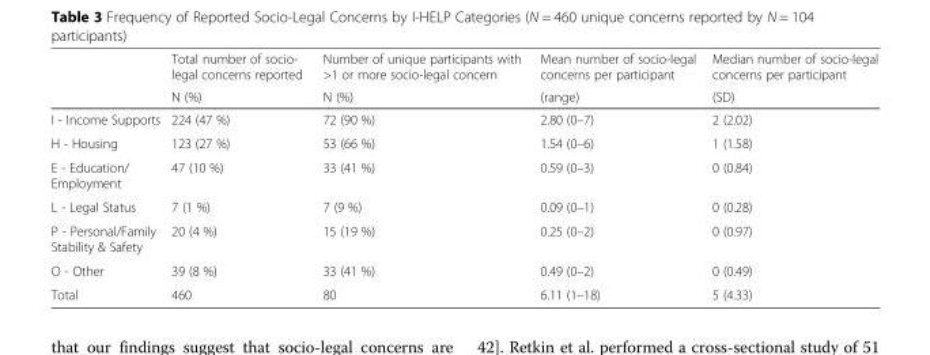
<table><thead><tr><td rowspan="2"></td><td rowspan="2">Total number of socio- legal concerns reported N (%)</td><td rowspan="2">Number of unique participants with &gt;1 or more socio-legal concern N (%)</td><td rowspan="2">Mean number of socio-legal concerns per participant (range)</td><td rowspan="2">Median number of socio-legal concerns per participant (SD)</td></tr><tr></tr></thead><tbody><tr><td>I - Income Supports</td><td>224 (47 %)</td><td>72 (90 %)</td><td>2.80 (0–7)</td><td>2 (2.02)</td></tr><tr><td>H - Housing</td><td>123 (27 %)</td><td>53 (66 %)</td><td>1.54 (0–6)</td><td>1 (1.58)</td></tr><tr><td>E - Education/ Employment</td><td>47 (10 %)</td><td>33 (41 %)</td><td>0.59 (0–3)</td><td>0 (0.84)</td></tr><tr><td>L - Legal Status</td><td>7 (1 %)</td><td>7 (9 %)</td><td>0.09 (0–1)</td><td>0 (0.28)</td></tr><tr><td>P - Personal/Family Stability &amp; Safety</td><td>20 (4 %)</td><td>15 (19 %)</td><td>0.25 (0–2)</td><td>0 (0.97)</td></tr><tr><td>O - Other</td><td>39 (8 %)</td><td>33 (41 %)</td><td>0.49 (0–2)</td><td>0 (0.49)</td></tr><tr><td>Total</td><td>460</td><td>80</td><td>6.11 (1–18)</td><td>5 (4.33)</td></tr></tbody></table>